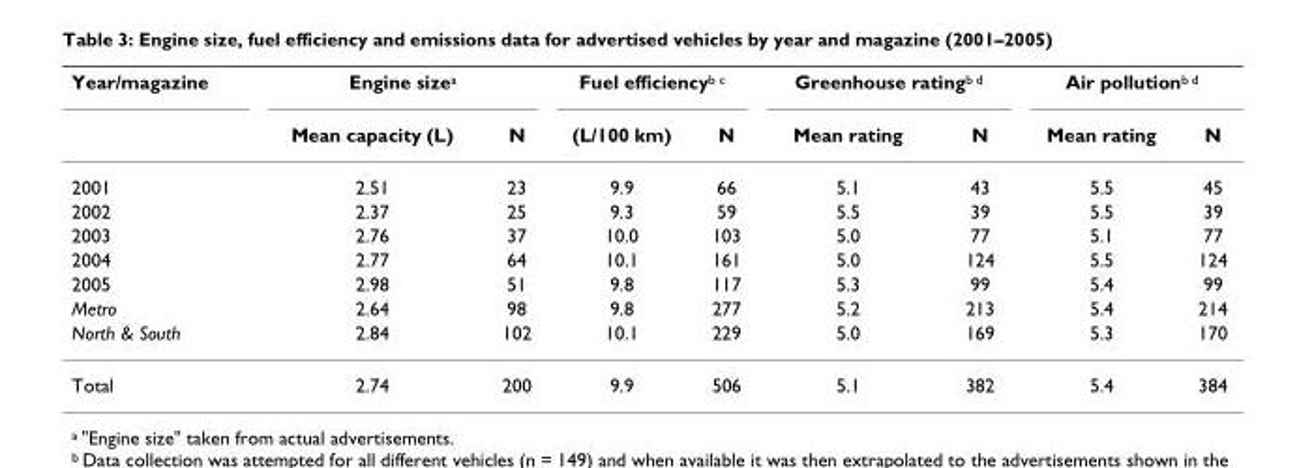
<table><thead><tr><td rowspan="2">Year/magazine</td><td colspan="2">Engine size<sup>a</sup></td><td colspan="2">Fuel efficiency<sup>b c</sup></td><td colspan="2">Greenhouse rating<sup>b d</sup></td><td colspan="2">Air pollution<sup>b d</sup></td></tr><tr><td>Mean capacity (L)</td><td>N</td><td>(L/100 km)</td><td>N</td><td>Mean rating</td><td>N</td><td>Mean rating</td><td>N</td></tr></thead><tbody><tr><td>2001</td><td>2.51</td><td>23</td><td>9.9</td><td>66</td><td>5.1</td><td>43</td><td>5.5</td><td>45</td></tr><tr><td>2002</td><td>2.37</td><td>25</td><td>9.3</td><td>59</td><td>5.5</td><td>39</td><td>5.5</td><td>39</td></tr><tr><td>2003</td><td>2.76</td><td>37</td><td>10.0</td><td>103</td><td>5.0</td><td>77</td><td>5.1</td><td>77</td></tr><tr><td>2004</td><td>2.77</td><td>64</td><td>10.1</td><td>161</td><td>5.0</td><td>124</td><td>5.5</td><td>124</td></tr><tr><td>2005</td><td>2.98</td><td>51</td><td>9.8</td><td>117</td><td>5.3</td><td>99</td><td>5.4</td><td>99</td></tr><tr><td>Metro</td><td>2.64</td><td>98</td><td>9.8</td><td>277</td><td>5.2</td><td>213</td><td>5.4</td><td>214</td></tr><tr><td>North &amp; South</td><td>2.84</td><td>102</td><td>10.1</td><td>229</td><td>5.0</td><td>169</td><td>5.3</td><td>170</td></tr><tr><td>Total</td><td>2.74</td><td>200</td><td>9.9</td><td>506</td><td>5.1</td><td>382</td><td>5.4</td><td>384</td></tr></tbody></table>